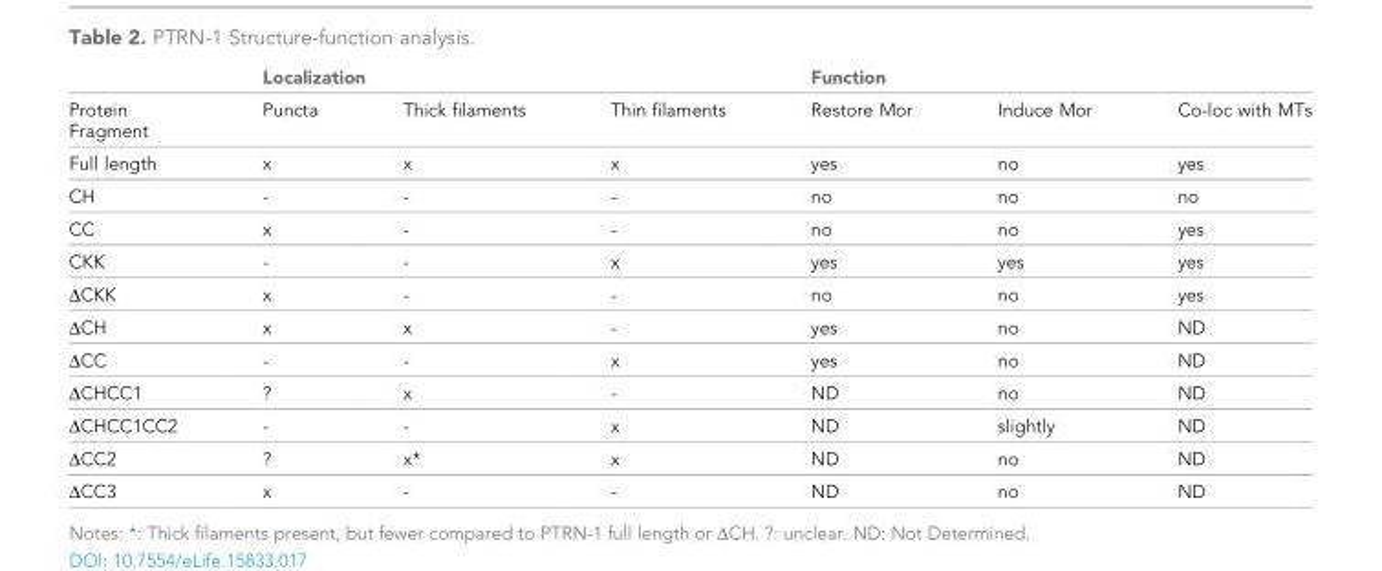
<table><thead><tr><td rowspan="2">Protein Fragment</td><td colspan="3">Localization</td><td colspan="3">Function</td></tr><tr><td>Puncta</td><td>Thick filaments</td><td>Thin filaments</td><td>Restore Mor</td><td>Induce Mor</td><td>Co-loc with MTs</td></tr></thead><tbody><tr><td>Full length</td><td>x</td><td>x</td><td>x</td><td>yes</td><td>no</td><td>yes</td></tr><tr><td>CH</td><td>-</td><td>-</td><td>-</td><td>no</td><td>no</td><td>no</td></tr><tr><td>CC</td><td>x</td><td>-</td><td>-</td><td>no</td><td>no</td><td>yes</td></tr><tr><td>CKK</td><td>-</td><td>-</td><td>x</td><td>yes</td><td>yes</td><td>yes</td></tr><tr><td>ΔCKK</td><td>x</td><td>-</td><td>-</td><td>no</td><td>no</td><td>yes</td></tr><tr><td>ΔCH</td><td>x</td><td>x</td><td>-</td><td>yes</td><td>no</td><td>ND</td></tr><tr><td>ΔCC</td><td>-</td><td>-</td><td>x</td><td>yes</td><td>no</td><td>ND</td></tr><tr><td>ΔCHCC1</td><td>?</td><td>x</td><td>-</td><td>ND</td><td>no</td><td>ND</td></tr><tr><td>ΔCHCC1CC2</td><td>-</td><td>-</td><td>x</td><td>ND</td><td>slightly</td><td>ND</td></tr><tr><td>ΔCC2</td><td>?</td><td>x*</td><td>x</td><td>ND</td><td>no</td><td>ND</td></tr><tr><td>ΔCC3</td><td>x</td><td>-</td><td>-</td><td>ND</td><td>no</td><td>ND</td></tr></tbody></table>